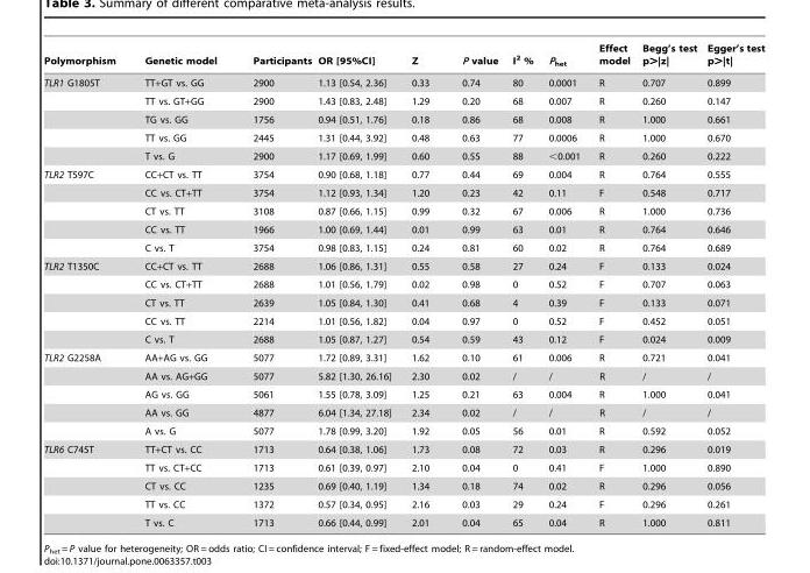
<table><thead><tr><td>Polymorphism</td><td>Genetic model</td><td>Participants</td><td>OR [95%CI]</td><td>Z</td><td>P value</td><td>I<sup>2</sup> %</td><td>P<sub>het</sub></td><td>Effect model</td><td>Begg’s test p&gt;|z|</td><td>Egger’s test p&gt;|t|</td></tr></thead><tbody><tr><td rowspan="5">TLR1 G1805T</td><td>TT+GT vs. GG</td><td>2900</td><td>1.13 [0.54, 2.36]</td><td>0.33</td><td>0.74</td><td>80</td><td>0.0001</td><td>R</td><td>0.707</td><td>0.899</td></tr><tr><td>TT vs. GT+GG</td><td>2900</td><td>1.43 [0.83, 2.48]</td><td>1.29</td><td>0.20</td><td>68</td><td>0.007</td><td>R</td><td>0.260</td><td>0.147</td></tr><tr><td>TG vs. GG</td><td>1756</td><td>0.94 [0.51, 1.76]</td><td>0.18</td><td>0.86</td><td>68</td><td>0.008</td><td>R</td><td>1.000</td><td>0.661</td></tr><tr><td>TT vs. GG</td><td>2445</td><td>1.31 [0.44, 3.92]</td><td>0.48</td><td>0.63</td><td>77</td><td>0.0006</td><td>R</td><td>1.000</td><td>0.670</td></tr><tr><td>T vs. G</td><td>2900</td><td>1.17 [0.69, 1.99]</td><td>0.60</td><td>0.55</td><td>88</td><td>&lt;0.001</td><td>R</td><td>0.260</td><td>0.222</td></tr><tr><td rowspan="5">TLR2 T597C</td><td>CC+CT vs. TT</td><td>3754</td><td>0.90 [0.68, 1.18]</td><td>0.77</td><td>0.44</td><td>69</td><td>0.004</td><td>R</td><td>0.764</td><td>0.555</td></tr><tr><td>CC vs. CT+TT</td><td>3754</td><td>1.12 [0.93, 1.34]</td><td>1.20</td><td>0.23</td><td>42</td><td>0.11</td><td>F</td><td>0.548</td><td>0.717</td></tr><tr><td>CT vs. TT</td><td>3108</td><td>0.87 [0.66, 1.15]</td><td>0.99</td><td>0.32</td><td>67</td><td>0.006</td><td>R</td><td>1.000</td><td>0.736</td></tr><tr><td>CC vs. TT</td><td>1966</td><td>1.00 [0.69, 1.44]</td><td>0.01</td><td>0.99</td><td>63</td><td>0.01</td><td>R</td><td>0.764</td><td>0.646</td></tr><tr><td>C vs. T</td><td>3754</td><td>0.98 [0.83, 1.15]</td><td>0.24</td><td>0.81</td><td>60</td><td>0.02</td><td>R</td><td>0.764</td><td>0.689</td></tr><tr><td rowspan="5">TLR2 T1350C</td><td>CC+CT vs. TT</td><td>2688</td><td>1.06 [0.86, 1.31]</td><td>0.55</td><td>0.58</td><td>27</td><td>0.24</td><td>F</td><td>0.133</td><td>0.024</td></tr><tr><td>CC vs. CT+TT</td><td>2688</td><td>1.01 [0.56, 1.79]</td><td>0.02</td><td>0.98</td><td>0</td><td>0.52</td><td>F</td><td>0.707</td><td>0.063</td></tr><tr><td>CT vs. TT</td><td>2639</td><td>1.05 [0.84, 1.30]</td><td>0.41</td><td>0.68</td><td>4</td><td>0.39</td><td>F</td><td>0.133</td><td>0.071</td></tr><tr><td>CC vs. TT</td><td>2214</td><td>1.01 [0.56, 1.82]</td><td>0.04</td><td>0.97</td><td>0</td><td>0.52</td><td>F</td><td>0.452</td><td>0.051</td></tr><tr><td>C vs. T</td><td>2688</td><td>1.05 [0.87, 1.27]</td><td>0.54</td><td>0.59</td><td>43</td><td>0.12</td><td>F</td><td>0.024</td><td>0.009</td></tr><tr><td rowspan="5">TLR2 G2258A</td><td>AA+AG vs. GG</td><td>5077</td><td>1.72 [0.89, 3.31]</td><td>1.62</td><td>0.10</td><td>61</td><td>0.006</td><td>R</td><td>0.721</td><td>0.041</td></tr><tr><td>AA vs. AG+GG</td><td>5077</td><td>5.82 [1.30, 26.16]</td><td>2.30</td><td>0.02</td><td>/</td><td>/</td><td>R</td><td>/</td><td>/</td></tr><tr><td>AG vs. GG</td><td>5061</td><td>1.55 [0.78, 3.09]</td><td>1.25</td><td>0.21</td><td>63</td><td>0.004</td><td>R</td><td>1.000</td><td>0.041</td></tr><tr><td>AA vs. GG</td><td>4877</td><td>6.04 [1.34, 27.18]</td><td>2.34</td><td>0.02</td><td>/</td><td>/</td><td>R</td><td>/</td><td>/</td></tr><tr><td>A vs. G</td><td>5077</td><td>1.78 [0.99, 3.20]</td><td>1.92</td><td>0.05</td><td>56</td><td>0.01</td><td>R</td><td>0.592</td><td>0.052</td></tr><tr><td rowspan="5">TLR6 C745T</td><td>TT+CT vs. CC</td><td>1713</td><td>0.64 [0.38, 1.06]</td><td>1.73</td><td>0.08</td><td>72</td><td>0.03</td><td>R</td><td>0.296</td><td>0.019</td></tr><tr><td>TT vs. CT+CC</td><td>1713</td><td>0.61 [0.39, 0.97]</td><td>2.10</td><td>0.04</td><td>0</td><td>0.41</td><td>F</td><td>1.000</td><td>0.890</td></tr><tr><td>CT vs. CC</td><td>1235</td><td>0.69 [0.40, 1.19]</td><td>1.34</td><td>0.18</td><td>74</td><td>0.02</td><td>R</td><td>0.296</td><td>0.056</td></tr><tr><td>TT vs. CC</td><td>1372</td><td>0.57 [0.34, 0.95]</td><td>2.16</td><td>0.03</td><td>29</td><td>0.24</td><td>F</td><td>0.296</td><td>0.261</td></tr><tr><td>T vs. C</td><td>1713</td><td>0.66 [0.44, 0.99]</td><td>2.01</td><td>0.04</td><td>65</td><td>0.04</td><td>R</td><td>1.000</td><td>0.811</td></tr></tbody></table>